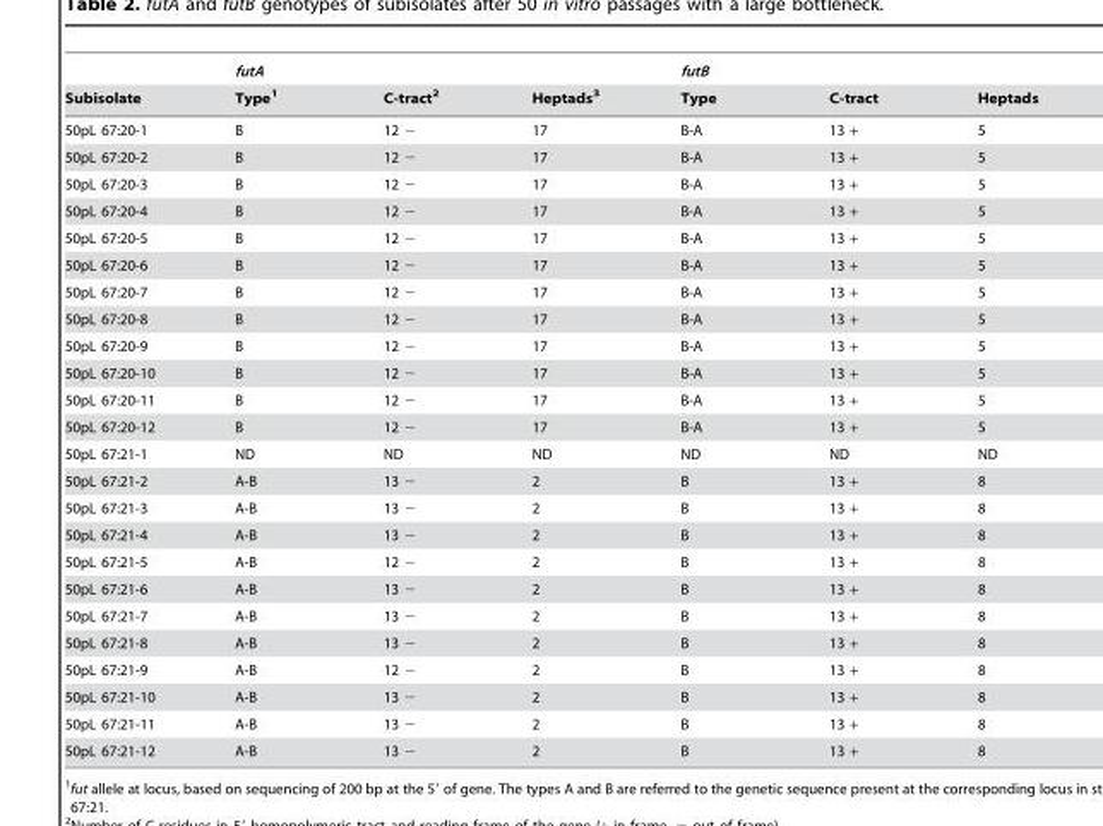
<table><thead><tr><td rowspan="2">Subisolate</td><td colspan="3">futA</td><td colspan="3">futB</td></tr><tr><td>Type<sup>1</sup></td><td>C-tract<sup>2</sup></td><td>Heptads<sup>3</sup></td><td>Type</td><td>C-tract</td><td>Heptads</td></tr></thead><tbody><tr><td>50pL 67:20-1</td><td>B</td><td>12 −</td><td>17</td><td>B-A</td><td>13 +</td><td>5</td></tr><tr><td>50pL 67:20-2</td><td>B</td><td>12 −</td><td>17</td><td>B-A</td><td>13 +</td><td>5</td></tr><tr><td>50pL 67:20-3</td><td>B</td><td>12 −</td><td>17</td><td>B-A</td><td>13 +</td><td>5</td></tr><tr><td>50pL 67:20-4</td><td>B</td><td>12 −</td><td>17</td><td>B-A</td><td>13 +</td><td>5</td></tr><tr><td>50pL 67:20-5</td><td>B</td><td>12 −</td><td>17</td><td>B-A</td><td>13 +</td><td>5</td></tr><tr><td>50pL 67:20-6</td><td>B</td><td>12 −</td><td>17</td><td>B-A</td><td>13 +</td><td>5</td></tr><tr><td>50pL 67:20-7</td><td>B</td><td>12 −</td><td>17</td><td>B-A</td><td>13 +</td><td>5</td></tr><tr><td>50pL 67:20-8</td><td>B</td><td>12 −</td><td>17</td><td>B-A</td><td>13 +</td><td>5</td></tr><tr><td>50pL 67:20-9</td><td>B</td><td>12 −</td><td>17</td><td>B-A</td><td>13 +</td><td>5</td></tr><tr><td>50pL 67:20-10</td><td>B</td><td>12 −</td><td>17</td><td>B-A</td><td>13 +</td><td>5</td></tr><tr><td>50pL 67:20-11</td><td>B</td><td>12 −</td><td>17</td><td>B-A</td><td>13 +</td><td>5</td></tr><tr><td>50pL 67:20-12</td><td>B</td><td>12 −</td><td>17</td><td>B-A</td><td>13 +</td><td>5</td></tr><tr><td>50pL 67:21-1</td><td>ND</td><td>ND</td><td>ND</td><td>ND</td><td>ND</td><td>ND</td></tr><tr><td>50pL 67:21-2</td><td>A-B</td><td>13 −</td><td>2</td><td>B</td><td>13 +</td><td>8</td></tr><tr><td>50pL 67:21-3</td><td>A-B</td><td>13 −</td><td>2</td><td>B</td><td>13 +</td><td>8</td></tr><tr><td>50pL 67:21-4</td><td>A-B</td><td>13 −</td><td>2</td><td>B</td><td>13 +</td><td>8</td></tr><tr><td>50pL 67:21-5</td><td>A-B</td><td>12 −</td><td>2</td><td>B</td><td>13 +</td><td>8</td></tr><tr><td>50pL 67:21-6</td><td>A-B</td><td>13 −</td><td>2</td><td>B</td><td>13 +</td><td>8</td></tr><tr><td>50pL 67:21-7</td><td>A-B</td><td>13 −</td><td>2</td><td>B</td><td>13 +</td><td>8</td></tr><tr><td>50pL 67:21-8</td><td>A-B</td><td>13 −</td><td>2</td><td>B</td><td>13 +</td><td>8</td></tr><tr><td>50pL 67:21-9</td><td>A-B</td><td>12 −</td><td>2</td><td>B</td><td>13 +</td><td>8</td></tr><tr><td>50pL 67:21-10</td><td>A-B</td><td>13 −</td><td>2</td><td>B</td><td>13 +</td><td>8</td></tr><tr><td>50pL 67:21-11</td><td>A-B</td><td>13 −</td><td>2</td><td>B</td><td>13 +</td><td>8</td></tr><tr><td>50pL 67:21-12</td><td>A-B</td><td>13 −</td><td>2</td><td>B</td><td>13 +</td><td>8</td></tr></tbody></table>